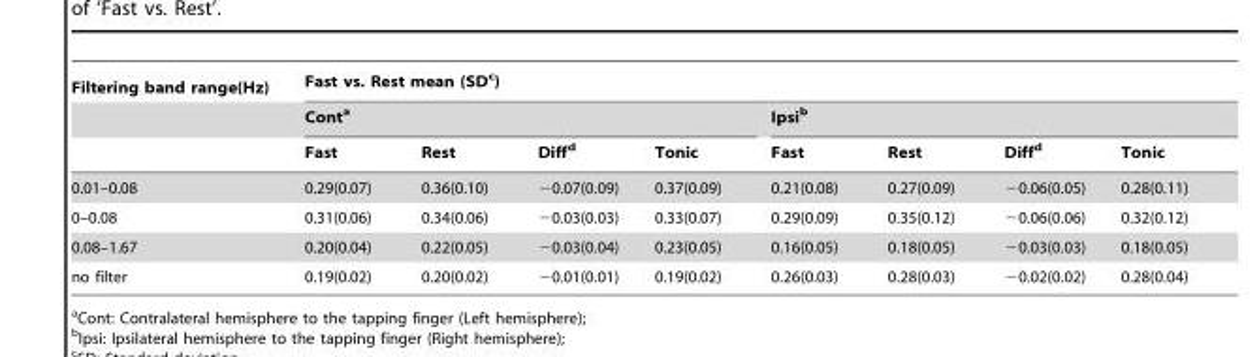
<table><thead><tr><td rowspan="3">Filtering band range(Hz)</td><td colspan="8">Fast vs. Rest mean (SD<sup>c</sup>)</td></tr><tr><td colspan="4">Cont<sup>a</sup></td><td colspan="4">Ipsi<sup>b</sup></td></tr><tr><td>Fast</td><td>Rest</td><td>Diff<sup>d</sup></td><td>Tonic</td><td>Fast</td><td>Rest</td><td>Diff<sup>d</sup></td><td>Tonic</td></tr></thead><tbody><tr><td>0.01–0.08</td><td>0.29(0.07)</td><td>0.36(0.10)</td><td>−0.07(0.09)</td><td>0.37(0.09)</td><td>0.21(0.08)</td><td>0.27(0.09)</td><td>−0.06(0.05)</td><td>0.28(0.11)</td></tr><tr><td>0–0.08</td><td>0.31(0.06)</td><td>0.34(0.06)</td><td>−0.03(0.03)</td><td>0.33(0.07)</td><td>0.29(0.09)</td><td>0.35(0.12)</td><td>−0.06(0.06)</td><td>0.32(0.12)</td></tr><tr><td>0.08–1.67</td><td>0.20(0.04)</td><td>0.22(0.05)</td><td>−0.03(0.04)</td><td>0.23(0.05)</td><td>0.16(0.05)</td><td>0.18(0.05)</td><td>−0.03(0.03)</td><td>0.18(0.05)</td></tr><tr><td>no filter</td><td>0.19(0.02)</td><td>0.20(0.02)</td><td>−0.01(0.01)</td><td>0.19(0.02)</td><td>0.26(0.03)</td><td>0.28(0.03)</td><td>−0.02(0.02)</td><td>0.28(0.04)</td></tr></tbody></table>